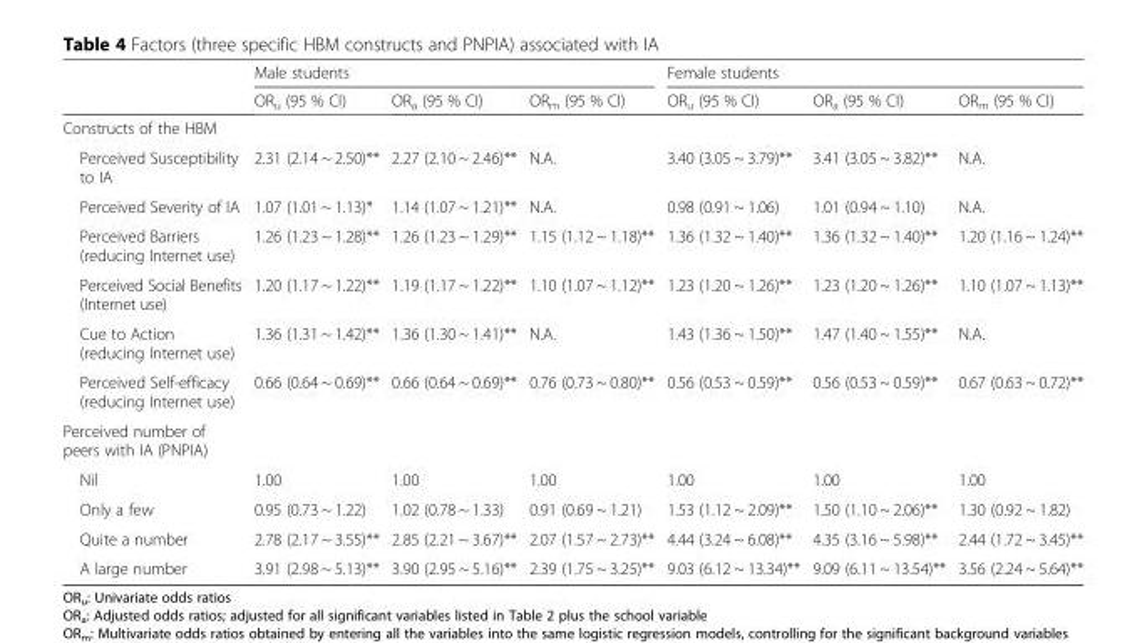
<table><thead><tr><td rowspan="2"></td><td colspan="3">Male students</td><td colspan="3">Female students</td></tr><tr><td>OR<sub>u</sub> (95 % CI)</td><td>OR<sub>a</sub> (95 % CI)</td><td>OR<sub>m</sub> (95 % CI)</td><td>OR<sub>u</sub> (95 % CI)</td><td>OR<sub>a</sub> (95 % CI)</td><td>OR<sub>m</sub> (95 % CI)</td></tr></thead><tbody><tr><td colspan="7">Constructs of the HBM</td></tr><tr><td>Perceived Susceptibility to IA</td><td>2.31 (2.14 ~ 2.50)**</td><td>2.27 (2.10 ~ 2.46)**</td><td>N.A.</td><td>3.40 (3.05 ~ 3.79)**</td><td>3.41 (3.05 ~ 3.82)**</td><td>N.A.</td></tr><tr><td>Perceived Severity of IA</td><td>1.07 (1.01 ~ 1.13)*</td><td>1.14 (1.07 ~ 1.21)**</td><td>N.A.</td><td>0.98 (0.91 ~ 1.06)</td><td>1.01 (0.94 ~ 1.10)</td><td>N.A.</td></tr><tr><td>Perceived Barriers (reducing Internet use)</td><td>1.26 (1.23 ~ 1.28)**</td><td>1.26 (1.23 ~ 1.29)**</td><td>1.15 (1.12 ~ 1.18)**</td><td>1.36 (1.32 ~ 1.40)**</td><td>1.36 (1.32 ~ 1.40)**</td><td>1.20 (1.16 ~ 1.24)**</td></tr><tr><td>Perceived Social Benefits (Internet use)</td><td>1.20 (1.17 ~ 1.22)**</td><td>1.19 (1.17 ~ 1.22)**</td><td>1.10 (1.07 ~ 1.12)**</td><td>1.23 (1.20 ~ 1.26)**</td><td>1.23 (1.20 ~ 1.26)**</td><td>1.10 (1.07 ~ 1.13)**</td></tr><tr><td>Cue to Action (reducing Internet use)</td><td>1.36 (1.31 ~ 1.42)**</td><td>1.36 (1.30 ~ 1.41)**</td><td>N.A.</td><td>1.43 (1.36 ~ 1.50)**</td><td>1.47 (1.40 ~ 1.55)**</td><td>N.A.</td></tr><tr><td>Perceived Self-efficacy (reducing Internet use)</td><td>0.66 (0.64 ~ 0.69)**</td><td>0.66 (0.64 ~ 0.69)**</td><td>0.76 (0.73 ~ 0.80)**</td><td>0.56 (0.53 ~ 0.59)**</td><td>0.56 (0.53 ~ 0.59)**</td><td>0.67 (0.63 ~ 0.72)**</td></tr><tr><td colspan="7">Perceived number of peers with IA (PNPIA)</td></tr><tr><td>Nil</td><td>1.00</td><td>1.00</td><td>1.00</td><td>1.00</td><td>1.00</td><td>1.00</td></tr><tr><td>Only a few</td><td>0.95 (0.73 ~ 1.22)</td><td>1.02 (0.78 ~ 1.33)</td><td>0.91 (0.69 ~ 1.21)</td><td>1.53 (1.12 ~ 2.09)**</td><td>1.50 (1.10 ~ 2.06)**</td><td>1.30 (0.92 ~ 1.82)</td></tr><tr><td>Quite a number</td><td>2.78 (2.17 ~ 3.55)**</td><td>2.85 (2.21 ~ 3.67)**</td><td>2.07 (1.57 ~ 2.73)**</td><td>4.44 (3.24 ~ 6.08)**</td><td>4.35 (3.16 ~ 5.98)**</td><td>2.44 (1.72 ~ 3.45)**</td></tr><tr><td>A large number</td><td>3.91 (2.98 ~ 5.13)**</td><td>3.90 (2.95 ~ 5.16)**</td><td>2.39 (1.75 ~ 3.25)**</td><td>9.03 (6.12 ~ 13.34)**</td><td>9.09 (6.11 ~ 13.54)**</td><td>3.56 (2.24 ~ 5.64)**</td></tr></tbody></table>